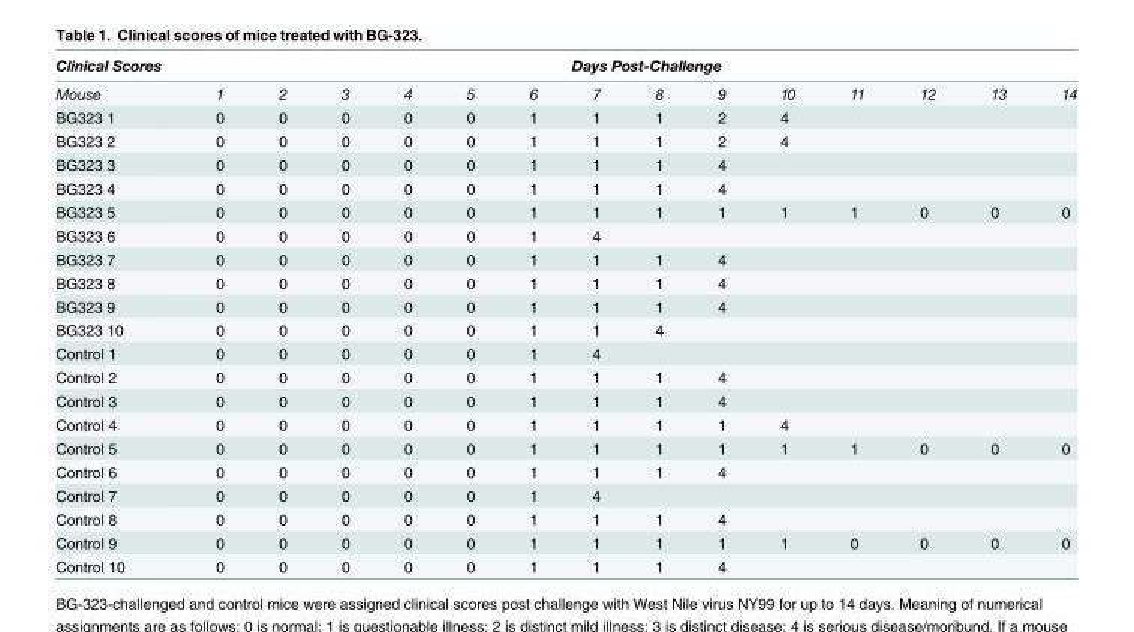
<table><thead><tr><td rowspan="2">Clinical Scores Mouse</td><td colspan="14">Days Post-Challenge</td></tr><tr><td>1</td><td>2</td><td>3</td><td>4</td><td>5</td><td>6</td><td>7</td><td>8</td><td>9</td><td>10</td><td>11</td><td>12</td><td>13</td><td>14</td></tr></thead><tbody><tr><td>BG323 1</td><td>0</td><td>0</td><td>0</td><td>0</td><td>0</td><td>1</td><td>1</td><td>1</td><td>2</td><td>4</td><td></td><td></td><td></td><td></td></tr><tr><td>BG323 2</td><td>0</td><td>0</td><td>0</td><td>0</td><td>0</td><td>1</td><td>1</td><td>1</td><td>2</td><td>4</td><td></td><td></td><td></td><td></td></tr><tr><td>BG323 3</td><td>0</td><td>0</td><td>0</td><td>0</td><td>0</td><td>1</td><td>1</td><td>1</td><td>4</td><td></td><td></td><td></td><td></td><td></td></tr><tr><td>BG323 4</td><td>0</td><td>0</td><td>0</td><td>0</td><td>0</td><td>1</td><td>1</td><td>1</td><td>4</td><td></td><td></td><td></td><td></td><td></td></tr><tr><td>BG323 5</td><td>0</td><td>0</td><td>0</td><td>0</td><td>0</td><td>1</td><td>1</td><td>1</td><td>1</td><td>1</td><td>1</td><td>0</td><td>0</td><td>0</td></tr><tr><td>BG323 6</td><td>0</td><td>0</td><td>0</td><td>0</td><td>0</td><td>1</td><td>4</td><td></td><td></td><td></td><td></td><td></td><td></td><td></td></tr><tr><td>BG323 7</td><td>0</td><td>0</td><td>0</td><td>0</td><td>0</td><td>1</td><td>1</td><td>1</td><td>4</td><td></td><td></td><td></td><td></td><td></td></tr><tr><td>BG323 8</td><td>0</td><td>0</td><td>0</td><td>0</td><td>0</td><td>1</td><td>1</td><td>1</td><td>4</td><td></td><td></td><td></td><td></td><td></td></tr><tr><td>BG323 9</td><td>0</td><td>0</td><td>0</td><td>0</td><td>0</td><td>1</td><td>1</td><td>1</td><td>4</td><td></td><td></td><td></td><td></td><td></td></tr><tr><td>BG323 10</td><td>0</td><td>0</td><td>0</td><td>0</td><td>0</td><td>1</td><td>1</td><td>4</td><td></td><td></td><td></td><td></td><td></td><td></td></tr><tr><td>Control 1</td><td>0</td><td>0</td><td>0</td><td>0</td><td>0</td><td>1</td><td>4</td><td></td><td></td><td></td><td></td><td></td><td></td><td></td></tr><tr><td>Control 2</td><td>0</td><td>0</td><td>0</td><td>0</td><td>0</td><td>1</td><td>1</td><td>1</td><td>4</td><td></td><td></td><td></td><td></td><td></td></tr><tr><td>Control 3</td><td>0</td><td>0</td><td>0</td><td>0</td><td>0</td><td>1</td><td>1</td><td>1</td><td>4</td><td></td><td></td><td></td><td></td><td></td></tr><tr><td>Control 4</td><td>0</td><td>0</td><td>0</td><td>0</td><td>0</td><td>1</td><td>1</td><td>1</td><td>1</td><td>4</td><td></td><td></td><td></td><td></td></tr><tr><td>Control 5</td><td>0</td><td>0</td><td>0</td><td>0</td><td>0</td><td>1</td><td>1</td><td>1</td><td>1</td><td>1</td><td>1</td><td>0</td><td>0</td><td>0</td></tr><tr><td>Control 6</td><td>0</td><td>0</td><td>0</td><td>0</td><td>0</td><td>1</td><td>1</td><td>1</td><td>4</td><td></td><td></td><td></td><td></td><td></td></tr><tr><td>Control 7</td><td>0</td><td>0</td><td>0</td><td>0</td><td>0</td><td>1</td><td>4</td><td></td><td></td><td></td><td></td><td></td><td></td><td></td></tr><tr><td>Control 8</td><td>0</td><td>0</td><td>0</td><td>0</td><td>0</td><td>1</td><td>1</td><td>1</td><td>4</td><td></td><td></td><td></td><td></td><td></td></tr><tr><td>Control 9</td><td>0</td><td>0</td><td>0</td><td>0</td><td>0</td><td>1</td><td>1</td><td>1</td><td>1</td><td>1</td><td>0</td><td>0</td><td>0</td><td>0</td></tr><tr><td>Control 10</td><td>0</td><td>0</td><td>0</td><td>0</td><td>0</td><td>1</td><td>1</td><td>1</td><td>4</td><td></td><td></td><td></td><td></td><td></td></tr></tbody></table>